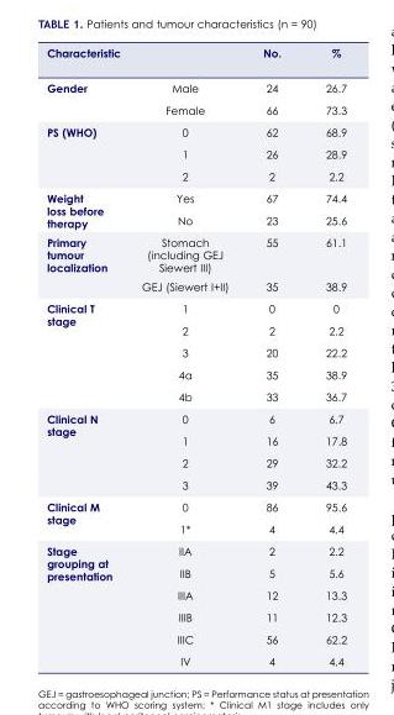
<table><thead><tr><td>Characteristic</td><td></td><td>No.</td><td>%</td></tr></thead><tbody><tr><td rowspan="2">Gender</td><td>Male</td><td>24</td><td>26.7</td></tr><tr><td>Female</td><td>66</td><td>73.3</td></tr><tr><td rowspan="3">PS (WHO)</td><td>0</td><td>62</td><td>68.9</td></tr><tr><td>1</td><td>26</td><td>28.9</td></tr><tr><td>2</td><td>2</td><td>2.2</td></tr><tr><td rowspan="2">Weight loss before therapy</td><td>Yes</td><td>67</td><td>74.4</td></tr><tr><td>No</td><td>23</td><td>25.6</td></tr><tr><td>Primary tumour localization</td><td>Stomach (including GEJ Siewert III)</td><td>55</td><td>61.1</td></tr><tr><td rowspan="6">Clinical T stage</td><td>GEJ (Siewert I+II)</td><td>35</td><td>38.9</td></tr><tr><td>1</td><td>0</td><td>0</td></tr><tr><td>2</td><td>2</td><td>2.2</td></tr><tr><td>3</td><td>20</td><td>22.2</td></tr><tr><td>4a</td><td>35</td><td>38.9</td></tr><tr><td>4b</td><td>33</td><td>36.7</td></tr><tr><td rowspan="4">Clinical N stage</td><td>0</td><td>6</td><td>6.7</td></tr><tr><td>1</td><td>16</td><td>17.8</td></tr><tr><td>2</td><td>29</td><td>32.2</td></tr><tr><td>3</td><td>39</td><td>43.3</td></tr><tr><td rowspan="2">Clinical M stage</td><td>0</td><td>86</td><td>95.6</td></tr><tr><td>1*</td><td>4</td><td>4.4</td></tr><tr><td rowspan="6">Stage grouping at presentation</td><td>IIA</td><td>2</td><td>2.2</td></tr><tr><td>IIB</td><td>5</td><td>5.6</td></tr><tr><td>IIIA</td><td>12</td><td>13.3</td></tr><tr><td>IIIB</td><td>11</td><td>12.3</td></tr><tr><td>IIIC</td><td>56</td><td>62.2</td></tr><tr><td>IV</td><td>4</td><td>4.4</td></tr></tbody></table>